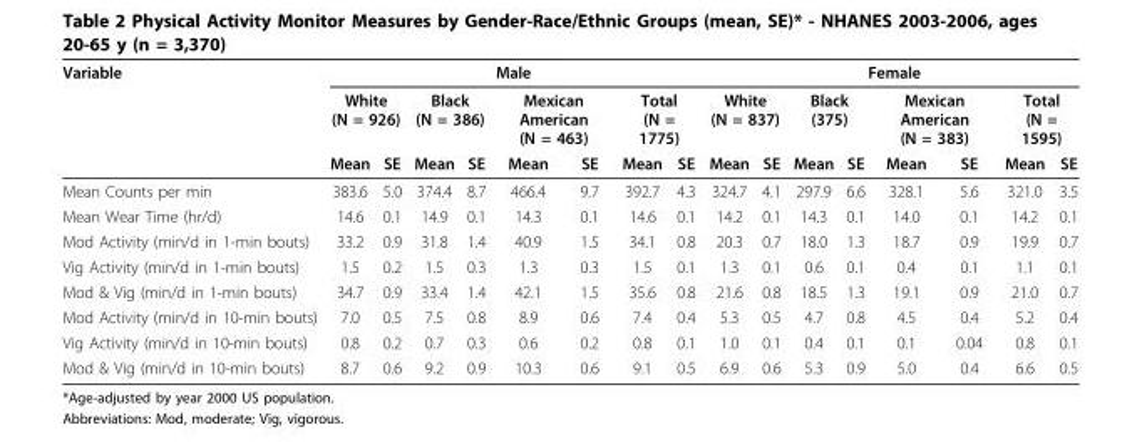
<table><thead><tr><td rowspan="3">Variable</td><td colspan="8">Male</td><td colspan="8">Female</td></tr><tr><td colspan="2">White (N = 926)</td><td colspan="2">Black (N = 386)</td><td colspan="2">Mexican American (N = 463)</td><td colspan="2">Total (N = 1775)</td><td colspan="2">White (N = 837)</td><td colspan="2">Black (375)</td><td colspan="2">Mexican American (N = 383)</td><td colspan="2">Total (N = 1595)</td></tr><tr><td>Mean</td><td>SE</td><td>Mean</td><td>SE</td><td>Mean</td><td>SE</td><td>Mean</td><td>SE</td><td>Mean</td><td>SE</td><td>Mean</td><td>SE</td><td>Mean</td><td>SE</td><td>Mean</td><td>SE</td></tr></thead><tbody><tr><td>Mean Counts per min</td><td>383.6</td><td>5.0</td><td>374.4</td><td>8.7</td><td>466.4</td><td>9.7</td><td>392.7</td><td>4.3</td><td>324.7</td><td>4.1</td><td>297.9</td><td>6.6</td><td>328.1</td><td>5.6</td><td>321.0</td><td>3.5</td></tr><tr><td>Mean Wear Time (hr/d)</td><td>14.6</td><td>0.1</td><td>14.9</td><td>0.1</td><td>14.3</td><td>0.1</td><td>14.6</td><td>0.1</td><td>14.2</td><td>0.1</td><td>14.3</td><td>0.1</td><td>14.0</td><td>0.1</td><td>14.2</td><td>0.1</td></tr><tr><td>Mod Activity (min/d in 1-min bouts)</td><td>33.2</td><td>0.9</td><td>31.8</td><td>1.4</td><td>40.9</td><td>1.5</td><td>34.1</td><td>0.8</td><td>20.3</td><td>0.7</td><td>18.0</td><td>1.3</td><td>18.7</td><td>0.9</td><td>19.9</td><td>0.7</td></tr><tr><td>Vig Activity (min/d in 1-min bouts)</td><td>1.5</td><td>0.2</td><td>1.5</td><td>0.3</td><td>1.3</td><td>0.3</td><td>1.5</td><td>0.1</td><td>1.3</td><td>0.1</td><td>0.6</td><td>0.1</td><td>0.4</td><td>0.1</td><td>1.1</td><td>0.1</td></tr><tr><td>Mod &amp; Vig (min/d in 1-min bouts)</td><td>34.7</td><td>0.9</td><td>33.4</td><td>1.4</td><td>42.1</td><td>1.5</td><td>35.6</td><td>0.8</td><td>21.6</td><td>0.8</td><td>18.5</td><td>1.3</td><td>19.1</td><td>0.9</td><td>21.0</td><td>0.7</td></tr><tr><td>Mod Activity (min/d in 10-min bouts)</td><td>7.0</td><td>0.5</td><td>7.5</td><td>0.8</td><td>8.9</td><td>0.6</td><td>7.4</td><td>0.4</td><td>5.3</td><td>0.5</td><td>4.7</td><td>0.8</td><td>4.5</td><td>0.4</td><td>5.2</td><td>0.4</td></tr><tr><td>Vig Activity (min/d in 10-min bouts)</td><td>0.8</td><td>0.2</td><td>0.7</td><td>0.3</td><td>0.6</td><td>0.2</td><td>0.8</td><td>0.1</td><td>1.0</td><td>0.1</td><td>0.4</td><td>0.1</td><td>0.1</td><td>0.04</td><td>0.8</td><td>0.1</td></tr><tr><td>Mod &amp; Vig (min/d in 10-min bouts)</td><td>8.7</td><td>0.6</td><td>9.2</td><td>0.9</td><td>10.3</td><td>0.6</td><td>9.1</td><td>0.5</td><td>6.9</td><td>0.6</td><td>5.3</td><td>0.9</td><td>5.0</td><td>0.4</td><td>6.6</td><td>0.5</td></tr></tbody></table>